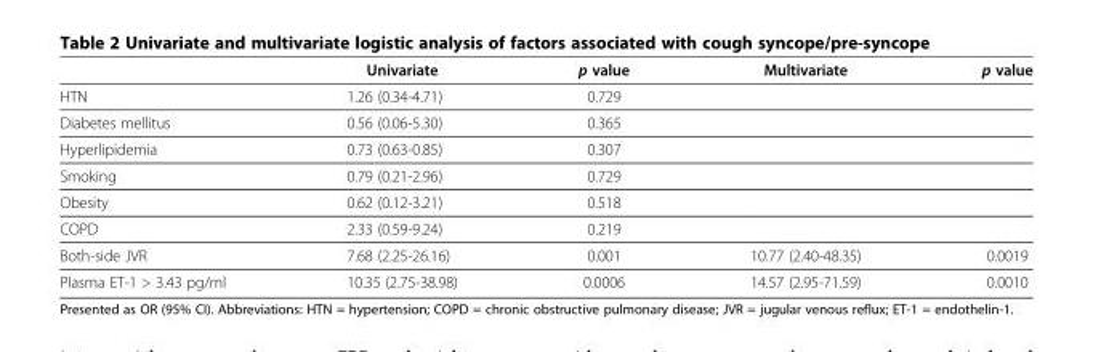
<table><thead><tr><td></td><td>Univariate</td><td>p value</td><td>Multivariate</td><td>p value</td></tr></thead><tbody><tr><td>HTN</td><td>1.26 (0.34-4.71)</td><td>0.729</td><td></td><td></td></tr><tr><td>Diabetes mellitus</td><td>0.56 (0.06-5.30)</td><td>0.365</td><td></td><td></td></tr><tr><td>Hyperlipidemia</td><td>0.73 (0.63-0.85)</td><td>0.307</td><td></td><td></td></tr><tr><td>Smoking</td><td>0.79 (0.21-2.96)</td><td>0.729</td><td></td><td></td></tr><tr><td>Obesity</td><td>0.62 (0.12-3.21)</td><td>0.518</td><td></td><td></td></tr><tr><td>COPD</td><td>2.33 (0.59-9.24)</td><td>0.219</td><td></td><td></td></tr><tr><td>Both-side JVR</td><td>7.68 (2.25-26.16)</td><td>0.001</td><td>10.77 (2.40-48.35)</td><td>0.0019</td></tr><tr><td>Plasma ET-1 &gt; 3.43 pg/ml</td><td>10.35 (2.75-38.98)</td><td>0.0006</td><td>14.57 (2.95-71.59)</td><td>0.0010</td></tr></tbody></table>